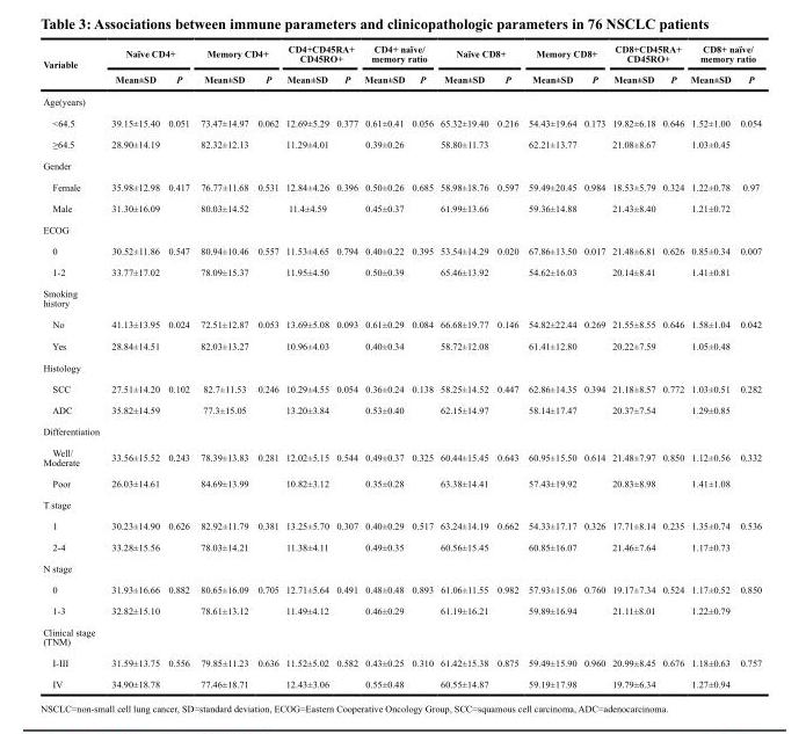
<table><thead><tr><td rowspan="2">Variable</td><td colspan="2">Naïve CD4+</td><td colspan="2">Memory CD4+</td><td colspan="2">CD4+CD45RA+ CD45RO+</td><td colspan="2">CD4+ naïve/ memory ratio</td><td colspan="2">Naïve CD8+</td><td colspan="2">Memory CD8+</td><td colspan="2">CD8+CD45RA+ CD45RO+</td><td colspan="2">CD8+ naïve/ memory ratio</td></tr><tr><td>Mean±SD</td><td>P</td><td>Mean±SD</td><td>P</td><td>Mean±SD</td><td>P</td><td>Mean±SD</td><td>P</td><td>Mean±SD</td><td>P</td><td>Mean±SD</td><td>P</td><td>Mean±SD</td><td>P</td><td>Mean±SD</td><td>P</td></tr></thead><tbody><tr><td colspan="17">Age(years)</td></tr><tr><td>&lt;64.5</td><td>39.15±15.40</td><td>0.051</td><td>73.47±14.97</td><td>0.062</td><td>12.69±5.29</td><td>0.377</td><td>0.61±0.41</td><td>0.056</td><td>65.32±19.40</td><td>0.216</td><td>54.43±19.64</td><td>0.173</td><td>19.82±6.18</td><td>0.646</td><td>1.52±1.00</td><td>0.054</td></tr><tr><td>≥64.5</td><td>28.90±14.19</td><td></td><td>82.32±12.13</td><td></td><td>11.29±4.01</td><td></td><td>0.39±0.26</td><td></td><td>58.80±11.73</td><td></td><td>62.21±13.77</td><td></td><td>21.08±8.67</td><td></td><td>1.03±0.45</td><td></td></tr><tr><td colspan="17">Gender</td></tr><tr><td>Female</td><td>35.98±12.98</td><td>0.417</td><td>76.77±11.68</td><td>0.531</td><td>12.84±4.26</td><td>0.396</td><td>0.50±0.26</td><td>0.685</td><td>58.98±18.76</td><td>0.597</td><td>59.49±20.45</td><td>0.984</td><td>18.53±5.79</td><td>0.324</td><td>1.22±0.78</td><td>0.97</td></tr><tr><td>Male</td><td>31.30±16.09</td><td></td><td>80.03±14.52</td><td></td><td>11.4±4.59</td><td></td><td>0.45±0.37</td><td></td><td>61.99±13.66</td><td></td><td>59.36±14.88</td><td></td><td>21.43±8.40</td><td></td><td>1.21±0.72</td><td></td></tr><tr><td colspan="17">ECOG</td></tr><tr><td>0</td><td>30.52±11.86</td><td>0.547</td><td>80.94±10.46</td><td>0.557</td><td>11.53±4.65</td><td>0.794</td><td>0.40±0.22</td><td>0.395</td><td>53.54±14.29</td><td>0.020</td><td>67.86±13.50</td><td>0.017</td><td>21.48±6.81</td><td>0.626</td><td>0.85±0.34</td><td>0.007</td></tr><tr><td>1-2</td><td>33.77±17.02</td><td></td><td>78.09±15.37</td><td></td><td>11.95±4.50</td><td></td><td>0.50±0.39</td><td></td><td>65.46±13.92</td><td></td><td>54.62±16.03</td><td></td><td>20.14±8.41</td><td></td><td>1.41±0.81</td><td></td></tr><tr><td colspan="17">Smoking history</td></tr><tr><td>No</td><td>41.13±13.95</td><td>0.024</td><td>72.51±12.87</td><td>0.053</td><td>13.69±5.08</td><td>0.093</td><td>0.61±0.29</td><td>0.084</td><td>66.68±19.77</td><td>0.146</td><td>54.82±22.44</td><td>0.269</td><td>21.55±8.55</td><td>0.646</td><td>1.58±1.04</td><td>0.042</td></tr><tr><td>Yes</td><td>28.84±14.51</td><td></td><td>82.03±13.27</td><td></td><td>10.96±4.03</td><td></td><td>0.40±0.34</td><td></td><td>58.72±12.08</td><td></td><td>61.41±12.80</td><td></td><td>20.22±7.59</td><td></td><td>1.05±0.48</td><td></td></tr><tr><td colspan="17">Histology</td></tr><tr><td>SCC</td><td>27.51±14.20</td><td>0.102</td><td>82.7±11.53</td><td>0.246</td><td>10.29±4.55</td><td>0.054</td><td>0.36±0.24</td><td>0.138</td><td>58.25±14.52</td><td>0.447</td><td>62.86±14.35</td><td>0.394</td><td>21.18±8.57</td><td>0.772</td><td>1.03±0.51</td><td>0.282</td></tr><tr><td>ADC</td><td>35.82±14.59</td><td></td><td>77.3±15.05</td><td></td><td>13.20±3.84</td><td></td><td>0.53±0.40</td><td></td><td>62.15±14.97</td><td></td><td>58.14±17.47</td><td></td><td>20.37±7.54</td><td></td><td>1.29±0.85</td><td></td></tr><tr><td colspan="17">Differentiation</td></tr><tr><td>Well/ Moderate</td><td>33.56±15.52</td><td>0.243</td><td>78.39±13.83</td><td>0.281</td><td>12.02±5.15</td><td>0.544</td><td>0.49±0.37</td><td>0.325</td><td>60.44±15.45</td><td>0.643</td><td>60.95±15.50</td><td>0.614</td><td>21.48±7.97</td><td>0.850</td><td>1.12±0.56</td><td>0.332</td></tr><tr><td>Poor</td><td>26.03±14.61</td><td></td><td>84.69±13.99</td><td></td><td>10.82±3.12</td><td></td><td>0.35±0.28</td><td></td><td>63.38±14.41</td><td></td><td>57.43±19.92</td><td></td><td>20.83±8.98</td><td></td><td>1.41±1.08</td><td></td></tr><tr><td colspan="17">T stage</td></tr><tr><td>1</td><td>30.23±14.90</td><td>0.626</td><td>82.92±11.79</td><td>0.381</td><td>13.25±5.70</td><td>0.307</td><td>0.40±0.29</td><td>0.517</td><td>63.24±14.19</td><td>0.662</td><td>54.33±17.17</td><td>0.326</td><td>17.71±8.14</td><td>0.235</td><td>1.35±0.74</td><td>0.536</td></tr><tr><td>2-4</td><td>33.28±15.56</td><td></td><td>78.03±14.21</td><td></td><td>11.38±4.11</td><td></td><td>0.49±0.35</td><td></td><td>60.56±15.45</td><td></td><td>60.85±16.07</td><td></td><td>21.46±7.64</td><td></td><td>1.17±0.73</td><td></td></tr><tr><td colspan="17">N stage</td></tr><tr><td>0</td><td>31.93±16.66</td><td>0.882</td><td>80.65±16.09</td><td>0.705</td><td>12.71±5.64</td><td>0.491</td><td>0.48±0.48</td><td>0.893</td><td>61.06±11.55</td><td>0.982</td><td>57.93±15.06</td><td>0.760</td><td>19.17±7.34</td><td>0.524</td><td>1.17±0.52</td><td>0.850</td></tr><tr><td>1-3</td><td>32.82±15.10</td><td></td><td>78.61±13.12</td><td></td><td>11.49±4.12</td><td></td><td>0.46±0.29</td><td></td><td>61.19±16.21</td><td></td><td>59.89±16.94</td><td></td><td>21.11±8.01</td><td></td><td>1.22±0.79</td><td></td></tr><tr><td colspan="17">Clinical stage (TNM)</td></tr><tr><td>I-III</td><td>31.59±13.75</td><td>0.556</td><td>79.85±11.23</td><td>0.636</td><td>11.52±5.02</td><td>0.582</td><td>0.43±0.25</td><td>0.310</td><td>61.42±15.38</td><td>0.875</td><td>59.49±15.90</td><td>0.960</td><td>20.99±8.45</td><td>0.676</td><td>1.18±0.63</td><td>0.757</td></tr><tr><td>IV</td><td>34.90±18.78</td><td></td><td>77.46±18.71</td><td></td><td>12.43±3.06</td><td></td><td>0.55±0.48</td><td></td><td>60.55±14.87</td><td></td><td>59.19±17.98</td><td></td><td>19.79±6.34</td><td></td><td>1.27±0.94</td><td></td></tr></tbody></table>